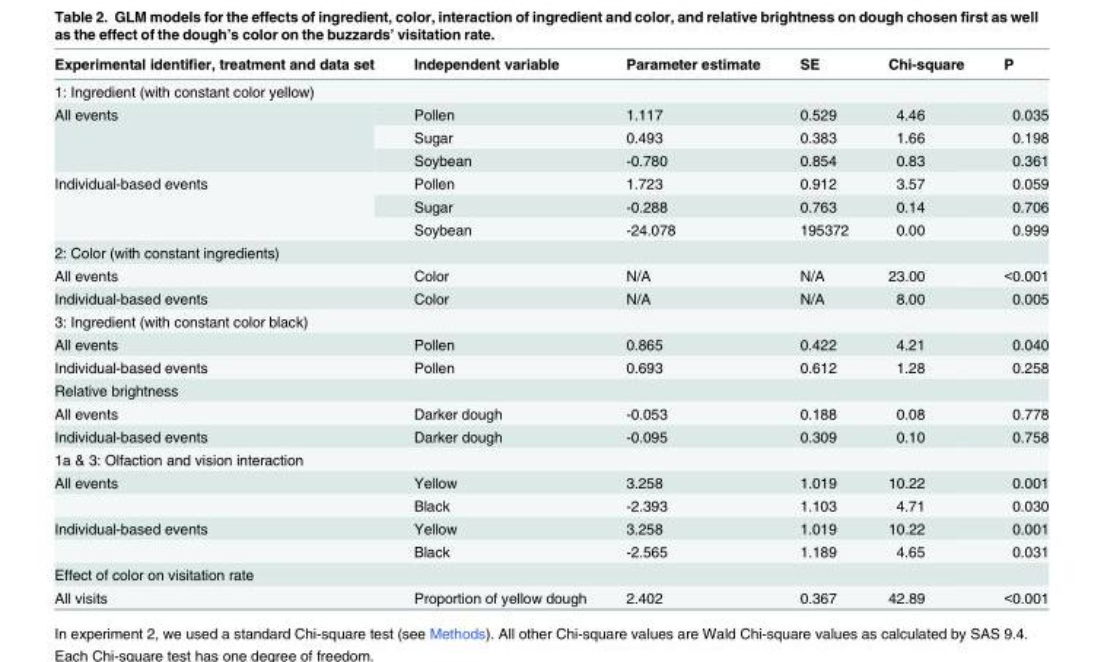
<table><thead><tr><td>Experimental identifier, treatment and data set</td><td>Independent variable</td><td>Parameter estimate</td><td>SE</td><td>Chi-square</td><td>P</td></tr></thead><tbody><tr><td colspan="6">1: Ingredient (with constant color yellow)</td></tr><tr><td rowspan="3">All events</td><td>Pollen</td><td>1.117</td><td>0.529</td><td>4.46</td><td>0.035</td></tr><tr><td>Sugar</td><td>0.493</td><td>0.383</td><td>1.66</td><td>0.198</td></tr><tr><td>Soybean</td><td>-0.780</td><td>0.854</td><td>0.83</td><td>0.361</td></tr><tr><td rowspan="3">Individual-based events</td><td>Pollen</td><td>1.723</td><td>0.912</td><td>3.57</td><td>0.059</td></tr><tr><td>Sugar</td><td>-0.288</td><td>0.763</td><td>0.14</td><td>0.706</td></tr><tr><td>Soybean</td><td>-24.078</td><td>195372</td><td>0.00</td><td>0.999</td></tr><tr><td colspan="6">2: Color (with constant ingredients)</td></tr><tr><td>All events</td><td>Color</td><td>N/A</td><td>N/A</td><td>23.00</td><td>&lt;0.001</td></tr><tr><td>Individual-based events</td><td>Color</td><td>N/A</td><td>N/A</td><td>8.00</td><td>0.005</td></tr><tr><td colspan="6">3: Ingredient (with constant color black)</td></tr><tr><td>All events</td><td>Pollen</td><td>0.865</td><td>0.422</td><td>4.21</td><td>0.040</td></tr><tr><td>Individual-based events</td><td>Pollen</td><td>0.693</td><td>0.612</td><td>1.28</td><td>0.258</td></tr><tr><td colspan="6">Relative brightness</td></tr><tr><td>All events</td><td>Darker dough</td><td>-0.053</td><td>0.188</td><td>0.08</td><td>0.778</td></tr><tr><td>Individual-based events</td><td>Darker dough</td><td>-0.095</td><td>0.309</td><td>0.10</td><td>0.758</td></tr><tr><td colspan="6">1a &amp; 3: Olfaction and vision interaction</td></tr><tr><td rowspan="2">All events</td><td>Yellow</td><td>3.258</td><td>1.019</td><td>10.22</td><td>0.001</td></tr><tr><td>Black</td><td>-2.393</td><td>1.103</td><td>4.71</td><td>0.030</td></tr><tr><td rowspan="2">Individual-based events</td><td>Yellow</td><td>3.258</td><td>1.019</td><td>10.22</td><td>0.001</td></tr><tr><td>Black</td><td>-2.565</td><td>1.189</td><td>4.65</td><td>0.031</td></tr><tr><td colspan="6">Effect of color on visitation rate</td></tr><tr><td>All visits</td><td>Proportion of yellow dough</td><td>2.402</td><td>0.367</td><td>42.89</td><td>&lt;0.001</td></tr></tbody></table>